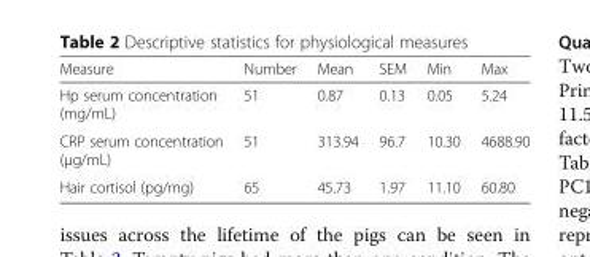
<table><thead><tr><td>Measure</td><td>Number</td><td>Mean</td><td>SEM</td><td>Min</td><td>Max</td></tr></thead><tbody><tr><td>Hp serum concentration (mg/mL)</td><td>51</td><td>0.87</td><td>0.13</td><td>0.05</td><td>5.24</td></tr><tr><td>CRP serum concentration (μg/mL)</td><td>51</td><td>313.94</td><td>96.7</td><td>10.30</td><td>4688.90</td></tr><tr><td>Hair cortisol (pg/mg)</td><td>65</td><td>45.73</td><td>1.97</td><td>11.10</td><td>60.80</td></tr></tbody></table>